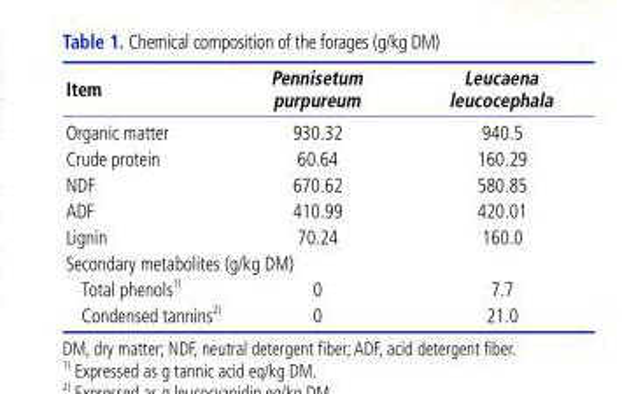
<table><thead><tr><td>Item</td><td>Pennisetum purpureum</td><td>Leucaena leucocephala</td></tr></thead><tbody><tr><td>Organic matter</td><td>930.32</td><td>940.5</td></tr><tr><td>Crude protein</td><td>60.64</td><td>160.29</td></tr><tr><td>NDF</td><td>670.62</td><td>580.85</td></tr><tr><td>ADF</td><td>410.99</td><td>420.01</td></tr><tr><td>Lignin</td><td>70.24</td><td>160.0</td></tr><tr><td colspan="3">Secondary metabolites (g/kg DM)</td></tr><tr><td>Total phenols 1)</td><td>0</td><td>7.7</td></tr><tr><td>Condensed tannins 2)</td><td>0</td><td>21.0</td></tr></tbody></table>